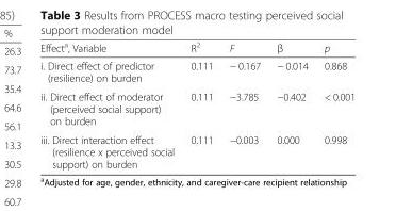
<table><thead><tr><td>Effect<sup>a</sup>, Variable</td><td>R<sup>2</sup></td><td>F</td><td>β</td><td>p</td></tr></thead><tbody><tr><td>i. Direct effect of predictor (resilience) on burden</td><td>0.111</td><td>− 0.167</td><td>− 0.014</td><td>0.868</td></tr><tr><td>ii. Direct effect of moderator (perceived social support) on burden</td><td>0.111</td><td>−3.785</td><td>−0.402</td><td>&lt; 0.001</td></tr><tr><td>iii. Direct interaction effect (resilience x perceived social support) on burden</td><td>0.111</td><td>−0.003</td><td>0.000</td><td>0.998</td></tr></tbody></table>